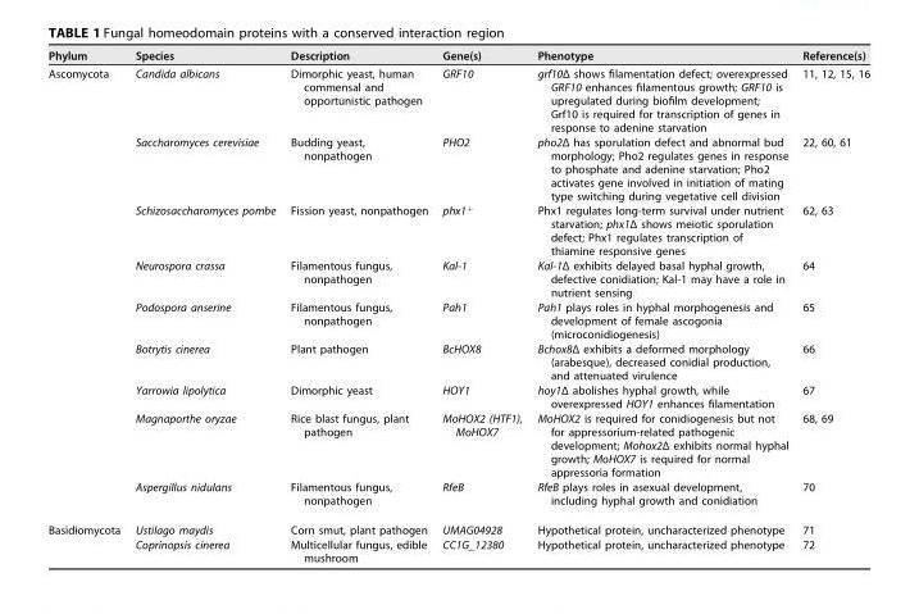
<table><thead><tr><td>Phylum</td><td>Species</td><td>Description</td><td>Gene(s)</td><td>Phenotype</td><td>Reference(s)</td></tr></thead><tbody><tr><td rowspan="9">Ascomycota</td><td>Candida albicans</td><td>Dimorphic yeast, human commensal and opportunistic pathogen</td><td>GRF10</td><td>grf10Δ shows filamentation defect; overexpressed GRF10 enhances filamentous growth; GRF10 is upregulated during biofilm development; Grf10 is required for transcription of genes in response to adenine starvation</td><td>11, 12, 15, 16</td></tr><tr><td>Saccharomyces cerevisiae</td><td>Budding yeast, nonpathogen</td><td>PHO2</td><td>pho2Δ has sporulation defect and abnormal bud morphology; Pho2 regulates genes in response to phosphate and adenine starvation; Pho2 activates gene involved in initiation of mating type switching during vegetative cell division</td><td>22, 60, 61</td></tr><tr><td>Schizosaccharomyces pombe</td><td>Fission yeast, nonpathogen</td><td>phx1+</td><td>Phx1 regulates long-term survival under nutrient starvation; phx1Δ shows meiotic sporulation defect; Phx1 regulates transcription of thiamine responsive genes</td><td>62, 63</td></tr><tr><td>Neurospora crassa</td><td>Filamentous fungus, nonpathogen</td><td>Kal-1</td><td>Kal-1Δ exhibits delayed basal hyphal growth, defective conidiation; Kal-1 may have a role in nutrient sensing</td><td>64</td></tr><tr><td>Podospora anserine</td><td>Filamentous fungus, nonpathogen</td><td>Pah1</td><td>Pah1 plays roles in hyphal morphogenesis and development of female ascogonia (microconidiogenesis)</td><td>65</td></tr><tr><td>Botrytis cinerea</td><td>Plant pathogen</td><td>BcHOX8</td><td>Bchox8Δ exhibits a deformed morphology (arabesque), decreased conidial production, and attenuated virulence</td><td>66</td></tr><tr><td>Yarrowia lipolytica</td><td>Dimorphic yeast</td><td>HOY1</td><td>hoy1Δ abolishes hyphal growth, while overexpressed HOY1 enhances filamentation</td><td>67</td></tr><tr><td>Magnaporthe oryzae</td><td>Rice blast fungus, plant pathogen</td><td>MoHOX2 (HTF1), MoHOX7</td><td>MoHOX2 is required for conidiogenesis but not for appressorium-related pathogenic development; Mohox2Δ exhibits normal hyphal growth; MoHOX7 is required for normal appressoria formation</td><td>68, 69</td></tr><tr><td>Aspergillus nidulans</td><td>Filamentous fungus, nonpathogen</td><td>RfeB</td><td>RfeB plays roles in asexual development, including hyphal growth and conidiation</td><td>70</td></tr><tr><td rowspan="2">Basidiomycota</td><td>Ustilago maydis</td><td>Corn smut, plant pathogen</td><td>UMAG04928</td><td>Hypothetical protein, uncharacterized phenotype</td><td>71</td></tr><tr><td>Coprinopsis cinerea</td><td>Multicellular fungus, edible mushroom</td><td>CC1G_12380</td><td>Hypothetical protein, uncharacterized phenotype</td><td>72</td></tr></tbody></table>